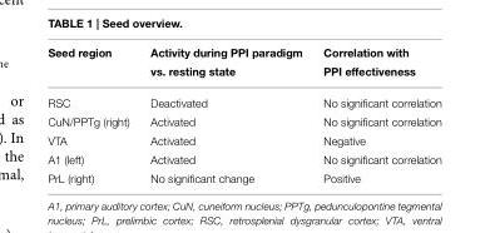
<table><thead><tr><td>Seed region</td><td>Activity during PPI paradigm vs. resting state</td><td>Correlation with PPI effectiveness</td></tr></thead><tbody><tr><td>RSC</td><td>Deactivated</td><td>No significant correlation</td></tr><tr><td>CuN/PPTg (right)</td><td>Activated</td><td>No significant correlation</td></tr><tr><td>VTA</td><td>Activated</td><td>Negative</td></tr><tr><td>A1 (left)</td><td>Activated</td><td>No significant correlation</td></tr><tr><td>PrL (right)</td><td>No significant change</td><td>Positive</td></tr></tbody></table>